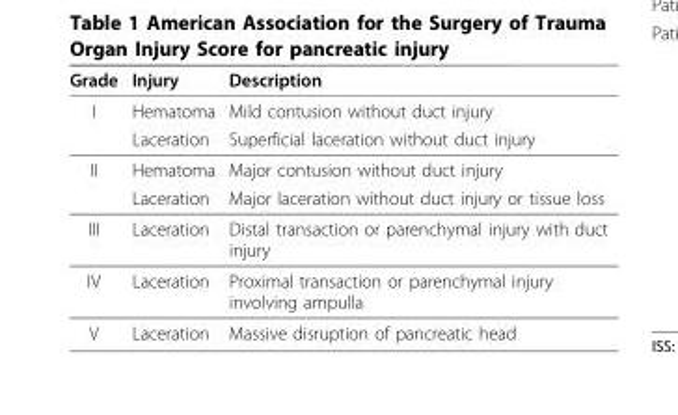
<table><thead><tr><td>Grade</td><td>Injury</td><td>Description</td></tr></thead><tbody><tr><td rowspan="2">I</td><td>Hematoma</td><td>Mild contusion without duct injury</td></tr><tr><td>Laceration</td><td>Superficial laceration without duct injury</td></tr><tr><td rowspan="2">II</td><td>Hematoma</td><td>Major contusion without duct injury</td></tr><tr><td>Laceration</td><td>Major laceration without duct injury or tissue loss</td></tr><tr><td>III</td><td>Laceration</td><td>Distal transaction or parenchymal injury with duct injury</td></tr><tr><td>IV</td><td>Laceration</td><td>Proximal transaction or parenchymal injury involving ampulla</td></tr><tr><td>V</td><td>Laceration</td><td>Massive disruption of pancreatic head</td></tr></tbody></table>